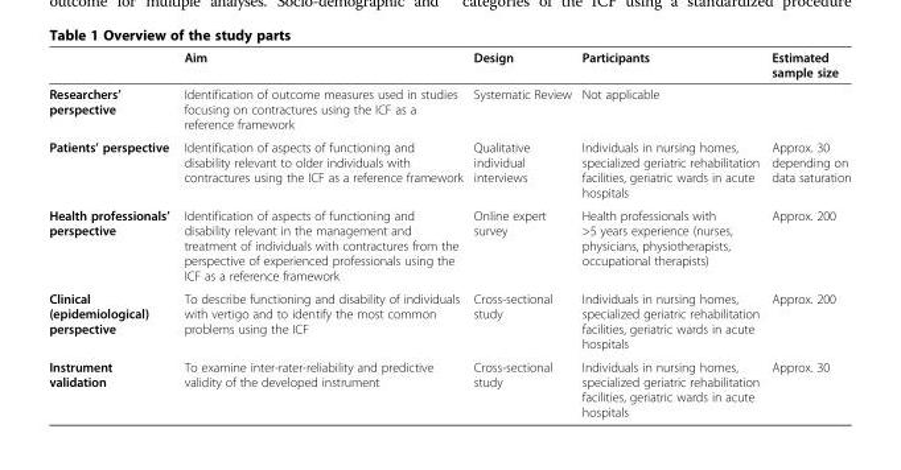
<table><thead><tr><td></td><td>Aim</td><td>Design</td><td>Participants</td><td>Estimated sample size</td></tr></thead><tbody><tr><td>Researchers’ perspective</td><td>Identification of outcome measures used in studies focusing on contractures using the ICF as a reference framework</td><td>Systematic Review</td><td>Not applicable</td><td></td></tr><tr><td>Patients’ perspective</td><td>Identification of aspects of functioning and disability relevant to older individuals with contractures using the ICF as a reference framework</td><td>Qualitative individual interviews</td><td>Individuals in nursing homes, specialized geriatric rehabilitation facilities, geriatric wards in acute hospitals</td><td>Approx. 30 depending on data saturation</td></tr><tr><td>Health professionals’ perspective</td><td>Identification of aspects of functioning and disability relevant in the management and treatment of individuals with contractures from the perspective of experienced professionals using the ICF as a reference framework</td><td>Online expert survey</td><td>Health professionals with &gt;5 years experience (nurses, physicians, physiotherapists, occupational therapists)</td><td>Approx. 200</td></tr><tr><td>Clinical (epidemiological) perspective</td><td>To describe functioning and disability of individuals with vertigo and to identify the most common problems using the ICF</td><td>Cross-sectional study</td><td>Individuals in nursing homes, specialized geriatric rehabilitation facilities, geriatric wards in acute hospitals</td><td>Approx. 200</td></tr><tr><td>Instrument validation</td><td>To examine inter-rater-reliability and predictive validity of the developed instrument</td><td>Cross-sectional study</td><td>Individuals in nursing homes, specialized geriatric rehabilitation facilities, geriatric wards in acute hospitals</td><td>Approx. 30</td></tr></tbody></table>